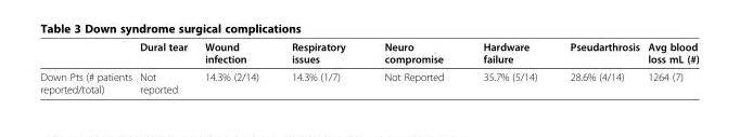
<table><thead><tr><td></td><td>Dural tear</td><td>Wound infection</td><td>Respiratory issues</td><td>Neuro compromise</td><td>Hardware failure</td><td>Pseudarthrosis</td><td>Avg blood loss mL (#)</td></tr></thead><tbody><tr><td>Down Pts (# patients reported/total)</td><td>Not reported</td><td>14.3% (2/14)</td><td>14.3% (1/7)</td><td>Not Reported</td><td>35.7% (5/14)</td><td>28.6% (4/14)</td><td>1264 (7)</td></tr></tbody></table>